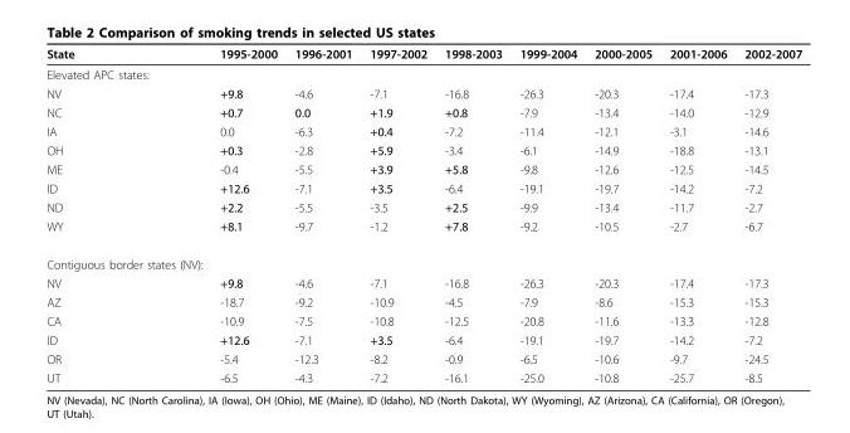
<table><thead><tr><td>State</td><td>1995-2000</td><td>1996-2001</td><td>1997-2002</td><td>1998-2003</td><td>1999-2004</td><td>2000-2005</td><td>2001-2006</td><td>2002-2007</td></tr></thead><tbody><tr><td colspan="9">Elevated APC states:</td></tr><tr><td>NV</td><td>+9.8</td><td>-4.6</td><td>-7.1</td><td>-16.8</td><td>-26.3</td><td>-20.3</td><td>-17.4</td><td>-17.3</td></tr><tr><td>NC</td><td>+0.7</td><td>0.0</td><td>+1.9</td><td>+0.8</td><td>-7.9</td><td>-13.4</td><td>-14.0</td><td>-12.9</td></tr><tr><td>IA</td><td>0.0</td><td>-6.3</td><td>+0.4</td><td>-7.2</td><td>-11.4</td><td>-12.1</td><td>-3.1</td><td>-14.6</td></tr><tr><td>OH</td><td>+0.3</td><td>-2.8</td><td>+5.9</td><td>-3.4</td><td>-6.1</td><td>-14.9</td><td>-18.8</td><td>-13.1</td></tr><tr><td>ME</td><td>-0.4</td><td>-5.5</td><td>+3.9</td><td>+5.8</td><td>-9.8</td><td>-12.6</td><td>-12.5</td><td>-14.5</td></tr><tr><td>ID</td><td>+12.6</td><td>-7.1</td><td>+3.5</td><td>-6.4</td><td>-19.1</td><td>-19.7</td><td>-14.2</td><td>-7.2</td></tr><tr><td>ND</td><td>+2.2</td><td>-5.5</td><td>-3.5</td><td>+2.5</td><td>-9.9</td><td>-13.4</td><td>-11.7</td><td>-2.7</td></tr><tr><td>WY</td><td>+8.1</td><td>-9.7</td><td>-1.2</td><td>+7.8</td><td>-9.2</td><td>-10.5</td><td>-2.7</td><td>-6.7</td></tr><tr><td colspan="9">Contiguous border states (NV):</td></tr><tr><td>NV</td><td>+9.8</td><td>-4.6</td><td>-7.1</td><td>-16.8</td><td>-26.3</td><td>-20.3</td><td>-17.4</td><td>-17.3</td></tr><tr><td>AZ</td><td>-18.7</td><td>-9.2</td><td>-10.9</td><td>-4.5</td><td>-7.9</td><td>-8.6</td><td>-15.3</td><td>-15.3</td></tr><tr><td>CA</td><td>-10.9</td><td>-7.5</td><td>-10.8</td><td>-12.5</td><td>-20.8</td><td>-11.6</td><td>-13.3</td><td>-12.8</td></tr><tr><td>ID</td><td>+12.6</td><td>-7.1</td><td>+3.5</td><td>-6.4</td><td>-19.1</td><td>-19.7</td><td>-14.2</td><td>-7.2</td></tr><tr><td>OR</td><td>-5.4</td><td>-12.3</td><td>-8.2</td><td>-0.9</td><td>-6.5</td><td>-10.6</td><td>-9.7</td><td>-24.5</td></tr><tr><td>UT</td><td>-6.5</td><td>-4.3</td><td>-7.2</td><td>-16.1</td><td>-25.0</td><td>-10.8</td><td>-25.7</td><td>-8.5</td></tr></tbody></table>